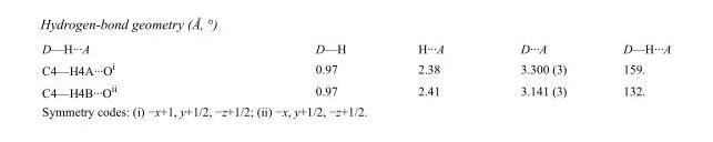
<table><tbody><tr><td>D—H···A</td><td>D—H</td><td>H···A</td><td>D···A</td><td>D—H···A</td></tr><tr><td>C4—H4A···O<sup>i</sup></td><td>0.97</td><td>2.38</td><td>3.300 (3)</td><td>159.</td></tr><tr><td>C4—H4B···O<sup>ii</sup></td><td>0.97</td><td>2.41</td><td>3.141 (3)</td><td>132.</td></tr></tbody></table>